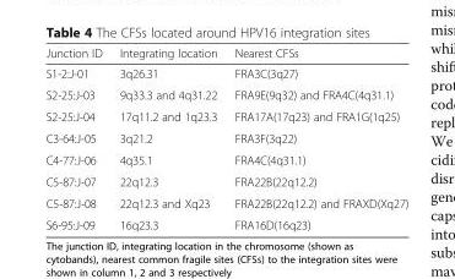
<table><thead><tr><td>Junction ID</td><td>Integrating location</td><td>Nearest CFSs</td></tr></thead><tbody><tr><td>S1-2:J-01</td><td>3q26.31</td><td>FRA3C(3q27)</td></tr><tr><td>S2-25:J-03</td><td>9q33.3 and 4q31.22</td><td>FRA9E(9q32) and FRA4C(4q31.1)</td></tr><tr><td>S2-25:J-04</td><td>17q11.2 and 1q23.3</td><td>FRA17A(17q23) and FRA1G(1q25)</td></tr><tr><td>C3-64:J-05</td><td>3q21.2</td><td>FRA3F(3q22)</td></tr><tr><td>C4-77:J-06</td><td>4q35.1</td><td>FRA4C(4q31.1)</td></tr><tr><td>C5-87:J-07</td><td>22q12.3</td><td>FRA22B(22q12.2)</td></tr><tr><td>C5-87:J-08</td><td>22q12.3 and Xq23</td><td>FRA22B(22q12.2) and FRAXD(Xq27)</td></tr><tr><td>S6-95:J-09</td><td>16q23.3</td><td>FRA16D(16q23)</td></tr></tbody></table>